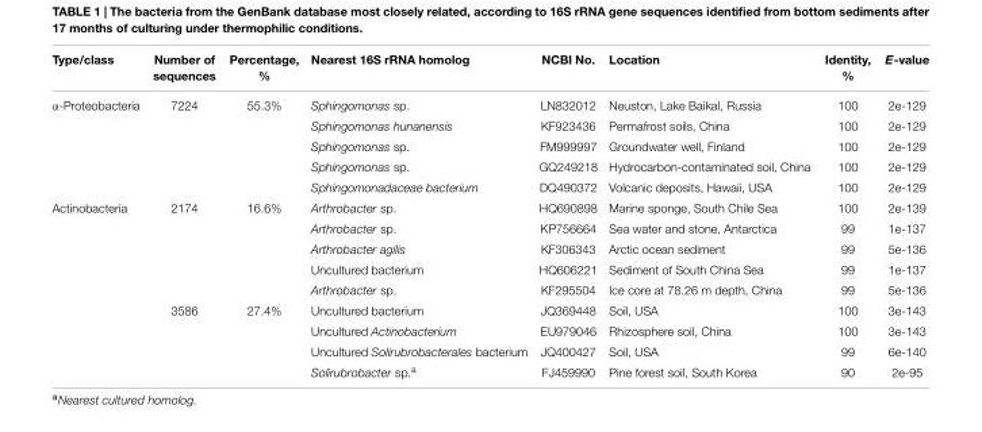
<table><thead><tr><td>Type/class</td><td>Number of sequences</td><td>Percentage, %</td><td>Nearest 16S rRNA homolog</td><td>NCBI No.</td><td>Location</td><td>Identity, %</td><td>E-value</td></tr></thead><tbody><tr><td rowspan="5">α-Proteobacteria</td><td>7224</td><td>55.3%</td><td>Sphingomonas sp.</td><td>LN832012</td><td>Neuston, Lake Baikal, Russia</td><td>100</td><td>2e-129</td></tr><tr><td></td><td></td><td>Sphingomonas hunanensis</td><td>KF923436</td><td>Permafrost soils, China</td><td>100</td><td>2e-129</td></tr><tr><td></td><td></td><td>Sphingomonas sp.</td><td>FM999997</td><td>Groundwater well, Finland</td><td>100</td><td>2e-129</td></tr><tr><td></td><td></td><td>Sphingomonas sp.</td><td>GQ249218</td><td>Hydrocarbon-contaminated soil, China</td><td>100</td><td>2e-129</td></tr><tr><td></td><td></td><td>Sphingomonadaceae bacterium</td><td>DQ490372</td><td>Volcanic deposits, Hawaii, USA</td><td>100</td><td>2e-129</td></tr><tr><td rowspan="9">Actinobacteria</td><td>2174</td><td>16.6%</td><td>Arthrobacter sp.</td><td>HQ690898</td><td>Marine sponge, South Chile Sea</td><td>100</td><td>2e-139</td></tr><tr><td></td><td></td><td>Arthrobacter sp.</td><td>KP756664</td><td>Sea water and stone, Antarctica</td><td>99</td><td>1e-137</td></tr><tr><td></td><td></td><td>Arthrobacter agilis</td><td>KF306343</td><td>Arctic ocean sediment</td><td>99</td><td>5e-136</td></tr><tr><td></td><td></td><td>Uncultured bacterium</td><td>HQ606221</td><td>Sediment of South China Sea</td><td>99</td><td>1e-137</td></tr><tr><td></td><td></td><td>Arthrobacter sp.</td><td>KF295504</td><td>Ice core at 78.26 m depth, China</td><td>99</td><td>5e-136</td></tr><tr><td>3586</td><td>27.4%</td><td>Uncultured bacterium</td><td>JQ369448</td><td>Soil, USA</td><td>100</td><td>3e-143</td></tr><tr><td></td><td></td><td>Uncultured Actinobacterium</td><td>EU979046</td><td>Rhizosphere soil, China</td><td>100</td><td>3e-143</td></tr><tr><td></td><td></td><td>Uncultured Solirubrobacterales bacterium</td><td>JQ400427</td><td>Soil, USA</td><td>99</td><td>6e-140</td></tr><tr><td></td><td></td><td>Solirubrobacter sp.<sup>a</sup></td><td>FJ459990</td><td>Pine forest soil, South Korea</td><td>90</td><td>2e-95</td></tr></tbody></table>